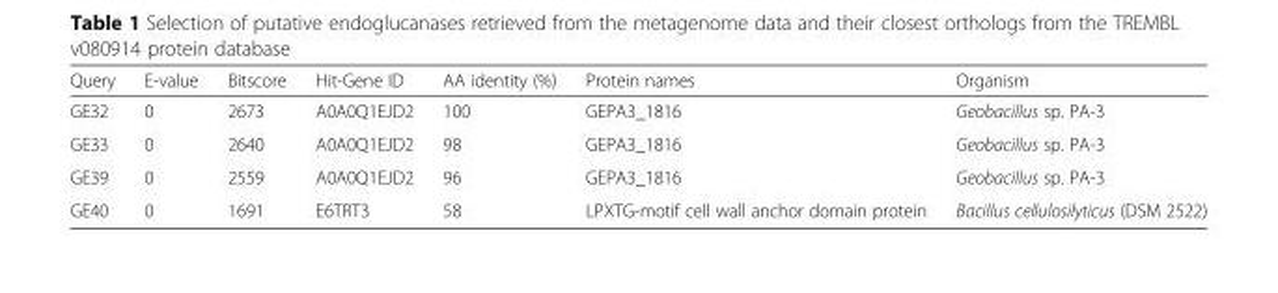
<table><thead><tr><td>Query</td><td>E-value</td><td>Bitscore</td><td>Hit-Gene ID</td><td>AA identity (%)</td><td>Protein names</td><td>Organism</td></tr></thead><tbody><tr><td>GE32</td><td>0</td><td>2673</td><td>A0A0Q1EJD2</td><td>100</td><td>GEPA3_1816</td><td>Geobacillus sp. PA-3</td></tr><tr><td>GE33</td><td>0</td><td>2640</td><td>A0A0Q1EJD2</td><td>98</td><td>GEPA3_1816</td><td>Geobacillus sp. PA-3</td></tr><tr><td>GE39</td><td>0</td><td>2559</td><td>A0A0Q1EJD2</td><td>96</td><td>GEPA3_1816</td><td>Geobacillus sp. PA-3</td></tr><tr><td>GE40</td><td>0</td><td>1691</td><td>E6TRT3</td><td>58</td><td>LPXTG-motif cell wall anchor domain protein</td><td>Bacillus cellulosilyticus (DSM 2522)</td></tr></tbody></table>